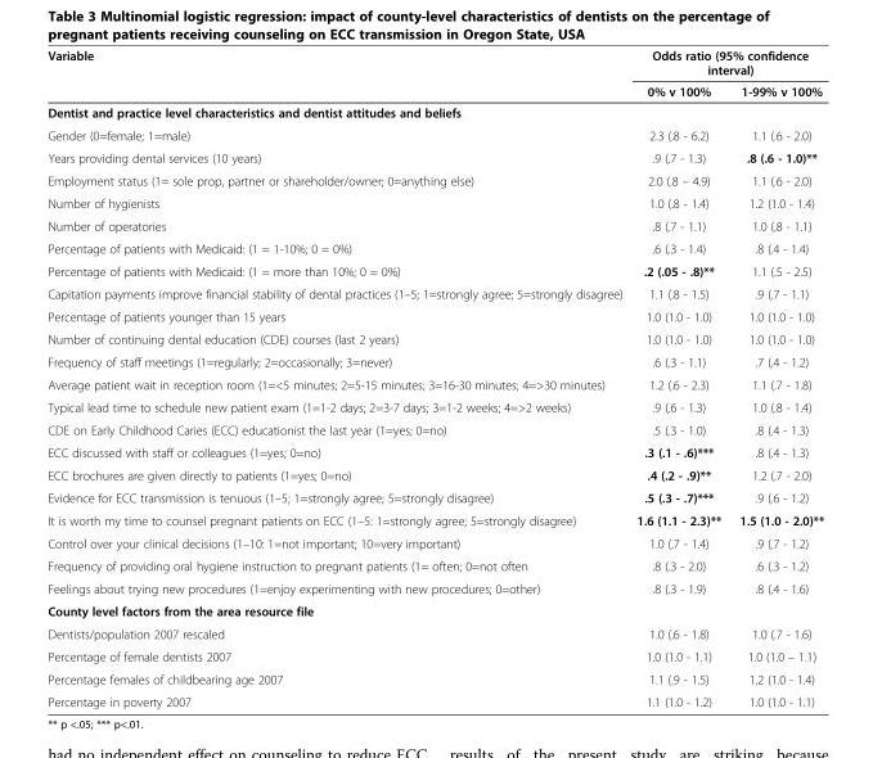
<table><thead><tr><td rowspan="2">Variable</td><td colspan="2">Odds ratio (95% confidence interval)</td></tr><tr><td>0% v 100%</td><td>1-99% v 100%</td></tr></thead><tbody><tr><td colspan="3">Dentist and practice level characteristics and dentist attitudes and beliefs</td></tr><tr><td>Gender (0=female; 1=male)</td><td>2.3 (.8 - 6.2)</td><td>1.1 (.6 - 2.0)</td></tr><tr><td>Years providing dental services (10 years)</td><td>.9 (.7 - 1.3)</td><td>.8 (.6 - 1.0)**</td></tr><tr><td>Employment status (1= sole prop, partner or shareholder/owner; 0=anything else)</td><td>2.0 (.8 – 4.9)</td><td>1.1 (.6 - 2.0)</td></tr><tr><td>Number of hygienists</td><td>1.0 (.8 - 1.4)</td><td>1.2 (1.0 - 1.4)</td></tr><tr><td>Number of operatories</td><td>.8 (.7 - 1.1)</td><td>1.0 (.8 - 1.1)</td></tr><tr><td>Percentage of patients with Medicaid: (1 = 1-10%; 0 = 0%)</td><td>.6 (.3 - 1.4)</td><td>.8 (.4 - 1.4)</td></tr><tr><td>Percentage of patients with Medicaid: (1 = more than 10%; 0 = 0%)</td><td>.2 (.05 - .8)**</td><td>1.1 (.5 - 2.5)</td></tr><tr><td>Capitation payments improve financial stability of dental practices (1–5; 1=strongly agree; 5=strongly disagree)</td><td>1.1 (.8 - 1.5)</td><td>.9 (.7 - 1.1)</td></tr><tr><td>Percentage of patients younger than 15 years</td><td>1.0 (1.0 - 1.0)</td><td>1.0 (1.0 - 1.0)</td></tr><tr><td>Number of continuing dental education (CDE) courses (last 2 years)</td><td>1.0 (1.0 - 1.0)</td><td>1.0 (1.0 - 1.0)</td></tr><tr><td>Frequency of staff meetings (1=regularly; 2=occasionally; 3=never)</td><td>.6 (.3 - 1.1)</td><td>.7 (.4 - 1.2)</td></tr><tr><td>Average patient wait in reception room (1=&lt;5 minutes; 2=5-15 minutes; 3=16-30 minutes; 4=&gt;30 minutes)</td><td>1.2 (.6 - 2.3)</td><td>1.1 (.7 - 1.8)</td></tr><tr><td>Typical lead time to schedule new patient exam (1=1-2 days; 2=3-7 days; 3=1-2 weeks; 4=&gt;2 weeks)</td><td>.9 (.6 - 1.3)</td><td>1.0 (.8 - 1.4)</td></tr><tr><td>CDE on Early Childhood Caries (ECC) educationist the last year (1=yes; 0=no)</td><td>.5 (.3 - 1.0)</td><td>.8 (.4 - 1.3)</td></tr><tr><td>ECC discussed with staff or colleagues (1=yes; 0=no)</td><td>.3 (.1 - .6)***</td><td>.8 (.4 - 1.3)</td></tr><tr><td>ECC brochures are given directly to patients (1=yes; 0=no)</td><td>.4 (.2 - .9)**</td><td>1.2 (.7 - 2.0)</td></tr><tr><td>Evidence for ECC transmission is tenuous (1–5; 1=strongly agree; 5=strongly disagree)</td><td>.5 (.3 - .7)***</td><td>.9 (.6 - 1.2)</td></tr><tr><td>It is worth my time to counsel pregnant patients on ECC (1–5: 1=strongly agree; 5=strongly disagree)</td><td>1.6 (1.1 - 2.3)**</td><td>1.5 (1.0 - 2.0)**</td></tr><tr><td>Control over your clinical decisions (1–10: 1=not important; 10=very important)</td><td>1.0 (.7 - 1.4)</td><td>.9 (.7 - 1.2)</td></tr><tr><td>Frequency of providing oral hygiene instruction to pregnant patients (1= often; 0=not often</td><td>.8 (.3 - 2.0)</td><td>.6 (.3 - 1.2)</td></tr><tr><td>Feelings about trying new procedures (1=enjoy experimenting with new procedures; 0=other)</td><td>.8 (.3 - 1.9)</td><td>.8 (.4 - 1.6)</td></tr><tr><td colspan="3">County level factors from the area resource file</td></tr><tr><td>Dentists/population 2007 rescaled</td><td>1.0 (.6 - 1.8)</td><td>1.0 (.7 - 1.6)</td></tr><tr><td>Percentage of female dentists 2007</td><td>1.0 (1.0 - 1.1)</td><td>1.0 (1.0 – 1.1)</td></tr><tr><td>Percentage females of childbearing age 2007</td><td>1.1 (.9 - 1.5)</td><td>1.2 (1.0 - 1.4)</td></tr><tr><td>Percentage in poverty 2007</td><td>1.1 (1.0 - 1.2)</td><td>1.0 (1.0 - 1.1)</td></tr></tbody></table>